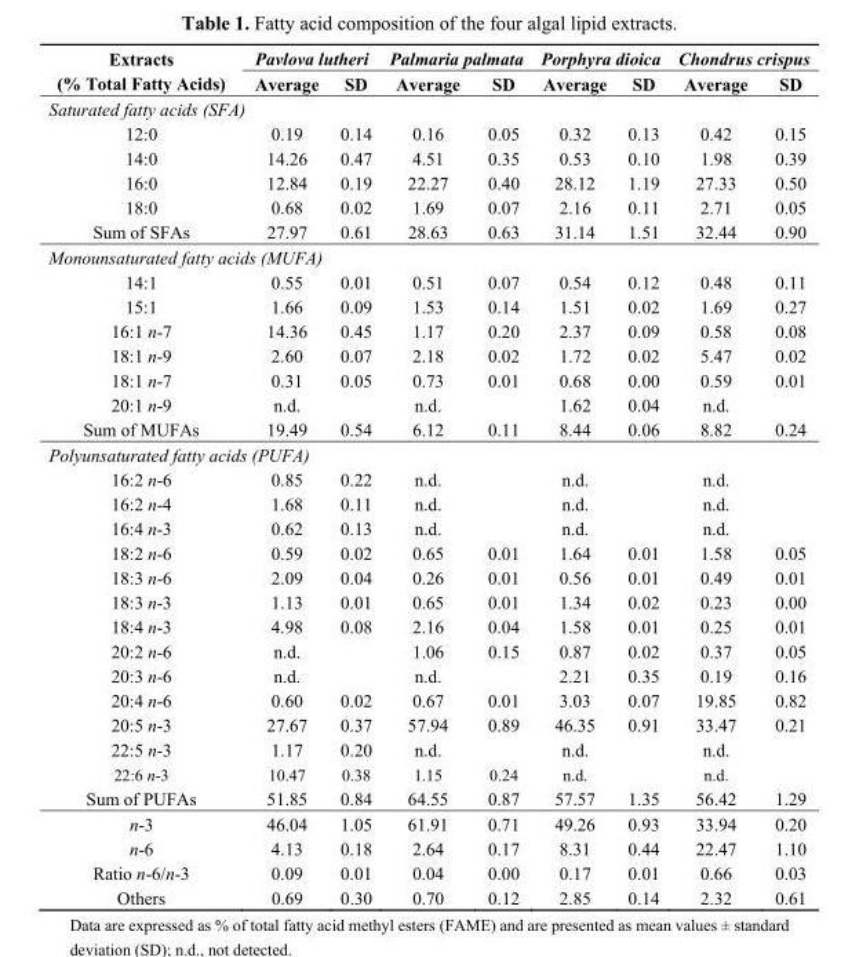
<table><thead><tr><td rowspan="2">Extracts (% Total Fatty Acids)</td><td colspan="2">Pavlova lutheri</td><td colspan="2">Palmaria palmata</td><td colspan="2">Porphyra dioica</td><td colspan="2">Chondrus crispus</td></tr><tr><td>Average</td><td>SD</td><td>Average</td><td>SD</td><td>Average</td><td>SD</td><td>Average</td><td>SD</td></tr></thead><tbody><tr><td colspan="9">Saturated fatty acids (SFA)</td></tr><tr><td>12:0</td><td>0.19</td><td>0.14</td><td>0.16</td><td>0.05</td><td>0.32</td><td>0.13</td><td>0.42</td><td>0.15</td></tr><tr><td>14:0</td><td>14.26</td><td>0.47</td><td>4.51</td><td>0.35</td><td>0.53</td><td>0.10</td><td>1.98</td><td>0.39</td></tr><tr><td>16:0</td><td>12.84</td><td>0.19</td><td>22.27</td><td>0.40</td><td>28.12</td><td>1.19</td><td>27.33</td><td>0.50</td></tr><tr><td>18:0</td><td>0.68</td><td>0.02</td><td>1.69</td><td>0.07</td><td>2.16</td><td>0.11</td><td>2.71</td><td>0.05</td></tr><tr><td>Sum of SFAs</td><td>27.97</td><td>0.61</td><td>28.63</td><td>0.63</td><td>31.14</td><td>1.51</td><td>32.44</td><td>0.90</td></tr><tr><td colspan="9">Monounsaturated fatty acids (MUFA)</td></tr><tr><td>14:1</td><td>0.55</td><td>0.01</td><td>0.51</td><td>0.07</td><td>0.54</td><td>0.12</td><td>0.48</td><td>0.11</td></tr><tr><td>15:1</td><td>1.66</td><td>0.09</td><td>1.53</td><td>0.14</td><td>1.51</td><td>0.02</td><td>1.69</td><td>0.27</td></tr><tr><td>16:1 n-7</td><td>14.36</td><td>0.45</td><td>1.17</td><td>0.20</td><td>2.37</td><td>0.09</td><td>0.58</td><td>0.08</td></tr><tr><td>18:1 n-9</td><td>2.60</td><td>0.07</td><td>2.18</td><td>0.02</td><td>1.72</td><td>0.02</td><td>5.47</td><td>0.02</td></tr><tr><td>18:1 n-7</td><td>0.31</td><td>0.05</td><td>0.73</td><td>0.01</td><td>0.68</td><td>0.00</td><td>0.59</td><td>0.01</td></tr><tr><td>20:1 n-9</td><td>n.d.</td><td></td><td>n.d.</td><td></td><td>1.62</td><td>0.04</td><td>n.d.</td><td></td></tr><tr><td>Sum of MUFAs</td><td>19.49</td><td>0.54</td><td>6.12</td><td>0.11</td><td>8.44</td><td>0.06</td><td>8.82</td><td>0.24</td></tr><tr><td colspan="9">Polyunsaturated fatty acids (PUFA)</td></tr><tr><td>16:2 n-6</td><td>0.85</td><td>0.22</td><td>n.d.</td><td></td><td>n.d.</td><td></td><td>n.d.</td><td></td></tr><tr><td>16:2 n-4</td><td>1.68</td><td>0.11</td><td>n.d.</td><td></td><td>n.d.</td><td></td><td>n.d.</td><td></td></tr><tr><td>16:4 n-3</td><td>0.62</td><td>0.13</td><td>n.d.</td><td></td><td>n.d.</td><td></td><td>n.d.</td><td></td></tr><tr><td>18:2 n-6</td><td>0.59</td><td>0.02</td><td>0.65</td><td>0.01</td><td>1.64</td><td>0.01</td><td>1.58</td><td>0.05</td></tr><tr><td>18:3 n-6</td><td>2.09</td><td>0.04</td><td>0.26</td><td>0.01</td><td>0.56</td><td>0.01</td><td>0.49</td><td>0.01</td></tr><tr><td>18:3 n-3</td><td>1.13</td><td>0.01</td><td>0.65</td><td>0.01</td><td>1.34</td><td>0.02</td><td>0.23</td><td>0.00</td></tr><tr><td>18:4 n-3</td><td>4.98</td><td>0.08</td><td>2.16</td><td>0.04</td><td>1.58</td><td>0.01</td><td>0.25</td><td>0.01</td></tr><tr><td>20:2 n-6</td><td>n.d.</td><td></td><td>1.06</td><td>0.15</td><td>0.87</td><td>0.02</td><td>0.37</td><td>0.05</td></tr><tr><td>20:3 n-6</td><td>n.d.</td><td></td><td>n.d.</td><td></td><td>2.21</td><td>0.35</td><td>0.19</td><td>0.16</td></tr><tr><td>20:4 n-6</td><td>0.60</td><td>0.02</td><td>0.67</td><td>0.01</td><td>3.03</td><td>0.07</td><td>19.85</td><td>0.82</td></tr><tr><td>20:5 n-3</td><td>27.67</td><td>0.37</td><td>57.94</td><td>0.89</td><td>46.35</td><td>0.91</td><td>33.47</td><td>0.21</td></tr><tr><td>22:5 n-3</td><td>1.17</td><td>0.20</td><td>n.d.</td><td></td><td>n.d.</td><td></td><td>n.d.</td><td></td></tr><tr><td>22:6 n-3</td><td>10.47</td><td>0.38</td><td>1.15</td><td>0.24</td><td>n.d.</td><td></td><td>n.d.</td><td></td></tr><tr><td>Sum of PUFAs</td><td>51.85</td><td>0.84</td><td>64.55</td><td>0.87</td><td>57.57</td><td>1.35</td><td>56.42</td><td>1.29</td></tr><tr><td>n-3</td><td>46.04</td><td>1.05</td><td>61.91</td><td>0.71</td><td>49.26</td><td>0.93</td><td>33.94</td><td>0.20</td></tr><tr><td>n-6</td><td>4.13</td><td>0.18</td><td>2.64</td><td>0.17</td><td>8.31</td><td>0.44</td><td>22.47</td><td>1.10</td></tr><tr><td>Ratio n-6/n-3</td><td>0.09</td><td>0.01</td><td>0.04</td><td>0.00</td><td>0.17</td><td>0.01</td><td>0.66</td><td>0.03</td></tr><tr><td>Others</td><td>0.69</td><td>0.30</td><td>0.70</td><td>0.12</td><td>2.85</td><td>0.14</td><td>2.32</td><td>0.61</td></tr></tbody></table>